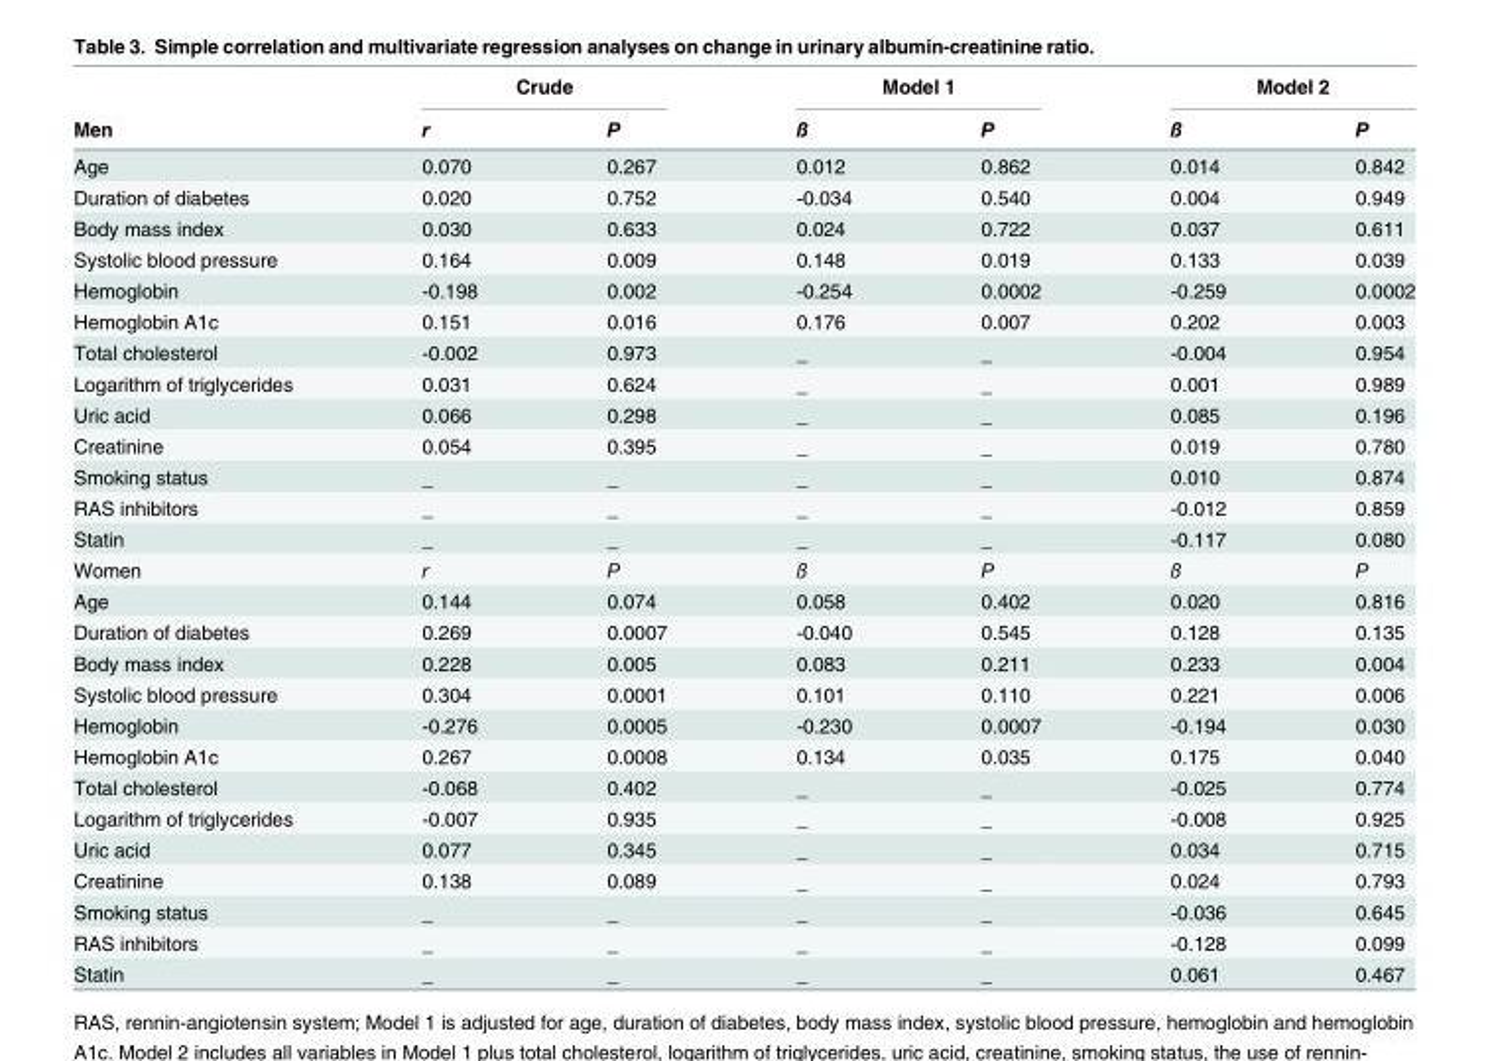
<table><thead><tr><td rowspan="2">Men</td><td colspan="2">Crude</td><td colspan="2">Model 1</td><td colspan="2">Model 2</td></tr><tr><td>r</td><td>P</td><td>ß</td><td>P</td><td>ß</td><td>P</td></tr></thead><tbody><tr><td>Age</td><td>0.070</td><td>0.267</td><td>0.012</td><td>0.862</td><td>0.014</td><td>0.842</td></tr><tr><td>Duration of diabetes</td><td>0.020</td><td>0.752</td><td>-0.034</td><td>0.540</td><td>0.004</td><td>0.949</td></tr><tr><td>Body mass index</td><td>0.030</td><td>0.633</td><td>0.024</td><td>0.722</td><td>0.037</td><td>0.611</td></tr><tr><td>Systolic blood pressure</td><td>0.164</td><td>0.009</td><td>0.148</td><td>0.019</td><td>0.133</td><td>0.039</td></tr><tr><td>Hemoglobin</td><td>-0.198</td><td>0.002</td><td>-0.254</td><td>0.0002</td><td>-0.259</td><td>0.0002</td></tr><tr><td>Hemoglobin A1c</td><td>0.151</td><td>0.016</td><td>0.176</td><td>0.007</td><td>0.202</td><td>0.003</td></tr><tr><td>Total cholesterol</td><td>-0.002</td><td>0.973</td><td>_</td><td>_</td><td>-0.004</td><td>0.954</td></tr><tr><td>Logarithm of triglycerides</td><td>0.031</td><td>0.624</td><td>_</td><td>_</td><td>0.001</td><td>0.989</td></tr><tr><td>Uric acid</td><td>0.066</td><td>0.298</td><td>_</td><td>_</td><td>0.085</td><td>0.196</td></tr><tr><td>Creatinine</td><td>0.054</td><td>0.395</td><td>_</td><td>_</td><td>0.019</td><td>0.780</td></tr><tr><td>Smoking status</td><td>_</td><td>_</td><td>_</td><td>_</td><td>0.010</td><td>0.874</td></tr><tr><td>RAS inhibitors</td><td>_</td><td>_</td><td>_</td><td>_</td><td>-0.012</td><td>0.859</td></tr><tr><td>Statin</td><td>_</td><td>_</td><td>_</td><td>_</td><td>-0.117</td><td>0.080</td></tr><tr><td>Women</td><td>r</td><td>P</td><td>ß</td><td>P</td><td>ß</td><td>P</td></tr><tr><td>Age</td><td>0.144</td><td>0.074</td><td>0.058</td><td>0.402</td><td>0.020</td><td>0.816</td></tr><tr><td>Duration of diabetes</td><td>0.269</td><td>0.0007</td><td>-0.040</td><td>0.545</td><td>0.128</td><td>0.135</td></tr><tr><td>Body mass index</td><td>0.228</td><td>0.005</td><td>0.083</td><td>0.211</td><td>0.233</td><td>0.004</td></tr><tr><td>Systolic blood pressure</td><td>0.304</td><td>0.0001</td><td>0.101</td><td>0.110</td><td>0.221</td><td>0.006</td></tr><tr><td>Hemoglobin</td><td>-0.276</td><td>0.0005</td><td>-0.230</td><td>0.0007</td><td>-0.194</td><td>0.030</td></tr><tr><td>Hemoglobin A1c</td><td>0.267</td><td>0.0008</td><td>0.134</td><td>0.035</td><td>0.175</td><td>0.040</td></tr><tr><td>Total cholesterol</td><td>-0.068</td><td>0.402</td><td>_</td><td>_</td><td>-0.025</td><td>0.774</td></tr><tr><td>Logarithm of triglycerides</td><td>-0.007</td><td>0.935</td><td>_</td><td>_</td><td>-0.008</td><td>0.925</td></tr><tr><td>Uric acid</td><td>0.077</td><td>0.345</td><td>_</td><td>_</td><td>0.034</td><td>0.715</td></tr><tr><td>Creatinine</td><td>0.138</td><td>0.089</td><td>_</td><td>_</td><td>0.024</td><td>0.793</td></tr><tr><td>Smoking status</td><td>_</td><td>_</td><td>_</td><td>_</td><td>-0.036</td><td>0.645</td></tr><tr><td>RAS inhibitors</td><td>_</td><td>_</td><td>_</td><td>_</td><td>-0.128</td><td>0.099</td></tr><tr><td>Statin</td><td>_</td><td>_</td><td>_</td><td>_</td><td>0.061</td><td>0.467</td></tr></tbody></table>